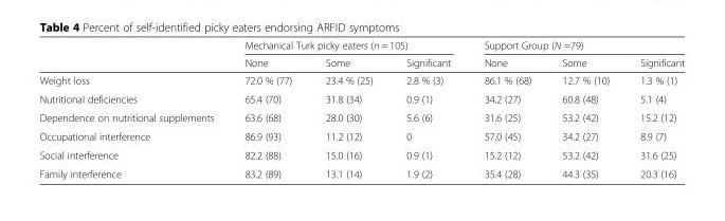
<table><thead><tr><td rowspan="2"></td><td colspan="3">Mechanical Turk picky eaters (n = 105)</td><td colspan="3">Support Group (N =79)</td></tr><tr><td>None</td><td>Some</td><td>Significant</td><td>None</td><td>Some</td><td>Significant</td></tr></thead><tbody><tr><td>Weight loss</td><td>72.0 % (77)</td><td>23.4 % (25)</td><td>2.8 % (3)</td><td>86.1 % (68)</td><td>12.7 % (10)</td><td>1.3 % (1)</td></tr><tr><td>Nutritional deficiencies</td><td>65.4 (70)</td><td>31.8 (34)</td><td>0.9 (1)</td><td>34.2 (27)</td><td>60.8 (48)</td><td>5.1 (4)</td></tr><tr><td>Dependence on nutritional supplements</td><td>63.6 (68)</td><td>28.0 (30)</td><td>5.6 (6)</td><td>31.6 (25)</td><td>53.2 (42)</td><td>15.2 (12)</td></tr><tr><td>Occupational interference</td><td>86.9 (93)</td><td>11.2 (12)</td><td>0</td><td>57.0 (45)</td><td>34.2 (27)</td><td>8.9 (7)</td></tr><tr><td>Social interference</td><td>82.2 (88)</td><td>15.0 (16)</td><td>0.9 (1)</td><td>15.2 (12)</td><td>53.2 (42)</td><td>31.6 (25)</td></tr><tr><td>Family interference</td><td>83.2 (89)</td><td>13.1 (14)</td><td>1.9 (2)</td><td>35.4 (28)</td><td>44.3 (35)</td><td>20.3 (16)</td></tr></tbody></table>